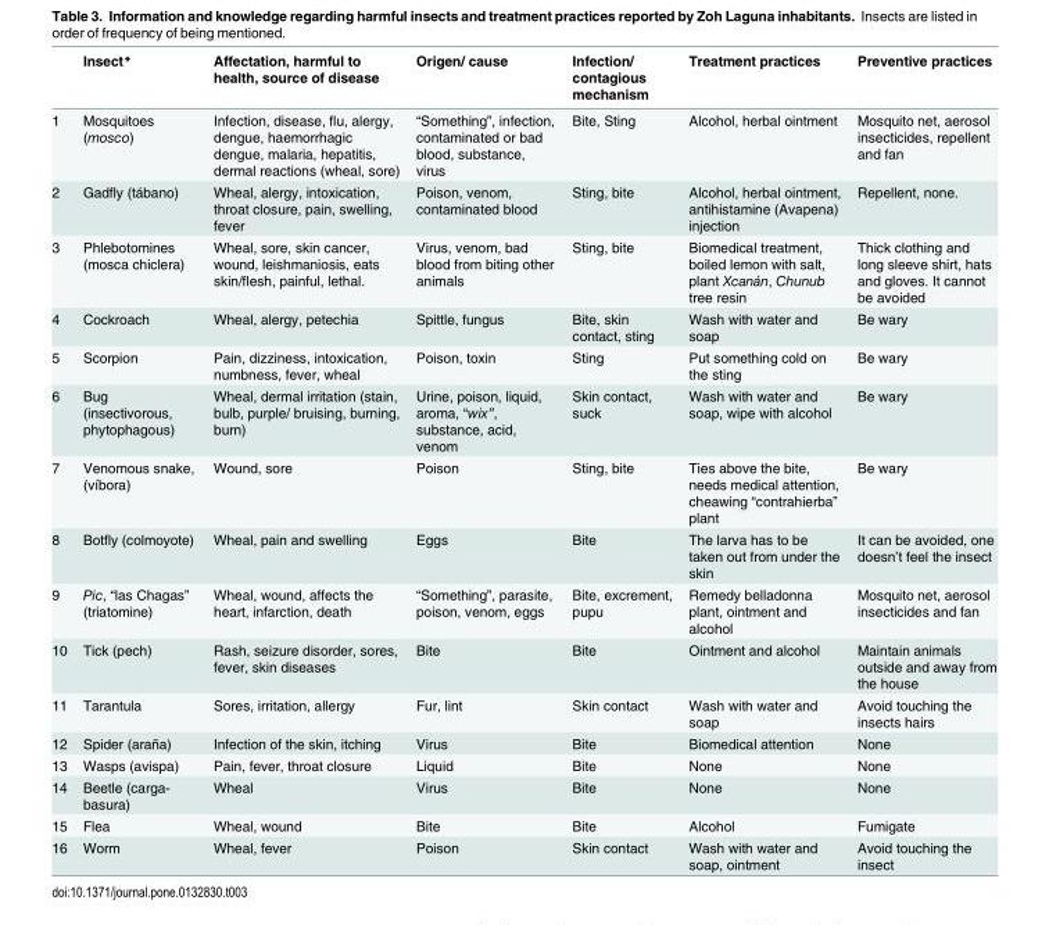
<table><thead><tr><td></td><td>Insect*</td><td>Affectation, harmful to health, source of disease</td><td>Origen/ cause</td><td>Infection/ contagious mechanism</td><td>Treatment practices</td><td>Preventive practices</td></tr></thead><tbody><tr><td>1</td><td>Mosquitoes (mosco)</td><td>Infection, disease, flu, alergy, dengue, haemorrhagic dengue, malaria, hepatitis, dermal reactions (wheal, sore)</td><td>“Something”, infection, contaminated or bad blood, substance, virus</td><td>Bite, Sting</td><td>Alcohol, herbal ointment</td><td>Mosquito net, aerosol insecticides, repellent and fan</td></tr><tr><td>2</td><td>Gadfly (tábano)</td><td>Wheal, alergy, intoxication, throat closure, pain, swelling, fever</td><td>Poison, venom, contaminated blood</td><td>Sting, bite</td><td>Alcohol, herbal ointment, antihistamine (Avapena) injection</td><td>Repellent, none.</td></tr><tr><td>3</td><td>Phlebotomines (mosca chiclera)</td><td>Wheal, sore, skin cancer, wound, leishmaniosis, eats skin/flesh, painful, lethal.</td><td>Virus, venom, bad blood from biting other animals</td><td>Sting, bite</td><td>Biomedical treatment, boiled lemon with salt, plant Xcanán, Chunub tree resin</td><td>Thick clothing and long sleeve shirt, hats and gloves. It cannot be avoided</td></tr><tr><td>4</td><td>Cockroach</td><td>Wheal, alergy, petechia</td><td>Spittle, fungus</td><td>Bite, skin contact, sting</td><td>Wash with water and soap</td><td>Be wary</td></tr><tr><td>5</td><td>Scorpion</td><td>Pain, dizziness, intoxication, numbness, fever, wheal</td><td>Poison, toxin</td><td>Sting</td><td>Put something cold on the sting</td><td>Be wary</td></tr><tr><td>6</td><td>Bug (insectivorous, phytophagous)</td><td>Wheal, dermal irritation (stain, bulb, purple/ bruising, burning, burn)</td><td>Urine, poison, liquid, aroma, “wix”, substance, acid, venom</td><td>Skin contact, suck</td><td>Wash with water and soap, wipe with alcohol</td><td>Be wary</td></tr><tr><td>7</td><td>Venomous snake, (víbora)</td><td>Wound, sore</td><td>Poison</td><td>Sting, bite</td><td>Ties above the bite, needs medical attention, cheawing “contrahierba” plant</td><td>Be wary</td></tr><tr><td>8</td><td>Botfly (colmoyote)</td><td>Wheal, pain and swelling</td><td>Eggs</td><td>Bite</td><td>The larva has to be taken out from under the skin</td><td>It can be avoided, one doesn’t feel the insect</td></tr><tr><td>9</td><td>Pic, “las Chagas” (triatomine)</td><td>Wheal, wound, affects the heart, infarction, death</td><td>“Something”, parasite, poison, venom, eggs</td><td>Bite, excrement, pupu</td><td>Remedy belladonna plant, ointment and alcohol</td><td>Mosquito net, aerosol insecticides and fan</td></tr><tr><td>10</td><td>Tick (pech)</td><td>Rash, seizure disorder, sores, fever, skin diseases</td><td>Bite</td><td>Bite</td><td>Ointment and alcohol</td><td>Maintain animals outside and away from the house</td></tr><tr><td>11</td><td>Tarantula</td><td>Sores, irritation, allergy</td><td>Fur, lint</td><td>Skin contact</td><td>Wash with water and soap</td><td>Avoid touching the insects hairs</td></tr><tr><td>12</td><td>Spider (araña)</td><td>Infection of the skin, itching</td><td>Virus</td><td>Bite</td><td>Biomedical attention</td><td>None</td></tr><tr><td>13</td><td>Wasps (avispa)</td><td>Pain, fever, throat closure</td><td>Liquid</td><td>Bite</td><td>None</td><td>None</td></tr><tr><td>14</td><td>Beetle (carga- basura)</td><td>Wheal</td><td>Virus</td><td>Bite</td><td>None</td><td>None</td></tr><tr><td>15</td><td>Flea</td><td>Wheal, wound</td><td>Bite</td><td>Bite</td><td>Alcohol</td><td>Fumigate</td></tr><tr><td>16</td><td>Worm</td><td>Wheal, fever</td><td>Poison</td><td>Skin contact</td><td>Wash with water and soap, ointment</td><td>Avoid touching the insect</td></tr></tbody></table>